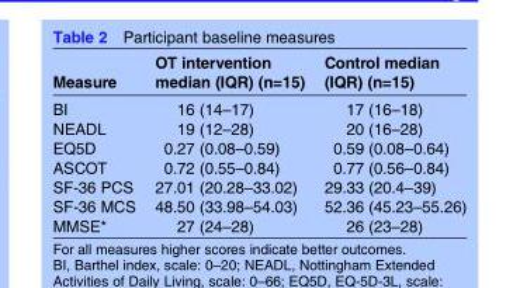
<table><thead><tr><td>Measure</td><td>OT intervention median (IQR) (n=15)</td><td>Control median (IQR) (n=15)</td></tr></thead><tbody><tr><td>BI</td><td>16 (14–17)</td><td>17 (16–18)</td></tr><tr><td>NEADL</td><td>19 (12–28)</td><td>20 (16–28)</td></tr><tr><td>EQ5D</td><td>0.27 (0.08–0.59)</td><td>0.59 (0.08–0.64)</td></tr><tr><td>ASCOT</td><td>0.72 (0.55–0.84)</td><td>0.77 (0.56–0.84)</td></tr><tr><td>SF-36 PCS</td><td>27.01 (20.28–33.02)</td><td>29.33 (20.4–39)</td></tr><tr><td>SF-36 MCS</td><td>48.50 (33.98–54.03)</td><td>52.36 (45.23–55.26)</td></tr><tr><td>MMSE*</td><td>27 (24–28)</td><td>26 (23–28)</td></tr></tbody></table>